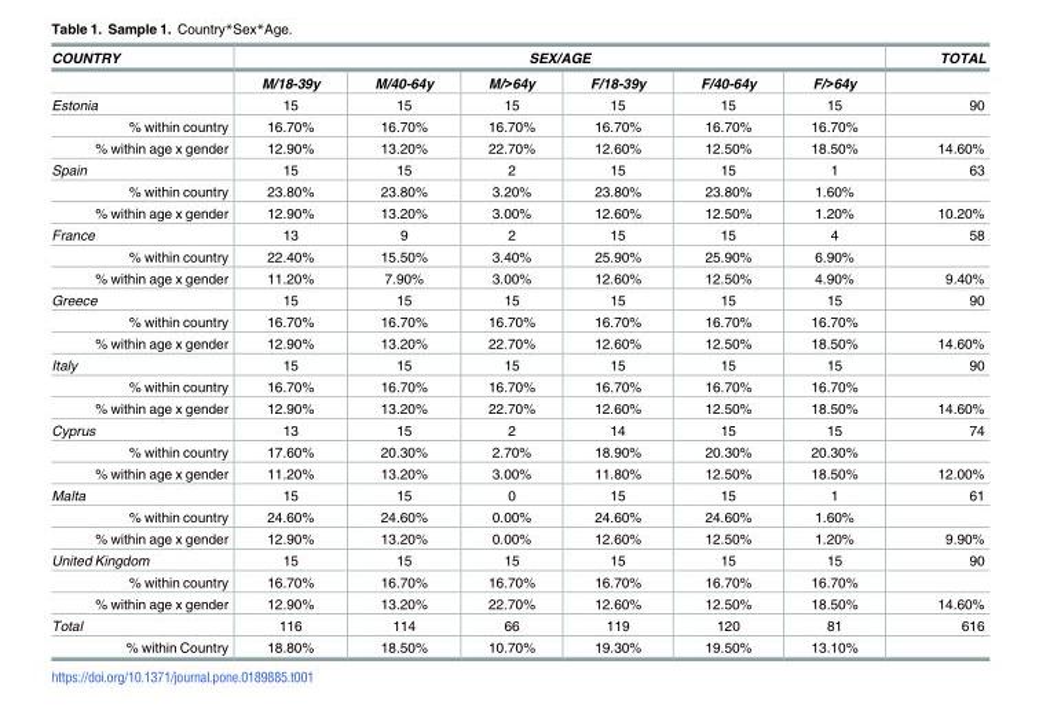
<table><thead><tr><td rowspan="2">COUNTRY</td><td colspan="6">SEX/AGE</td><td rowspan="2">TOTAL</td></tr><tr><td>M/18-39y</td><td>M/40-64y</td><td>M/&gt;64y</td><td>F/18-39y</td><td>F/40-64y</td><td>F/&gt;64y</td></tr></thead><tbody><tr><td>Estonia</td><td>15</td><td>15</td><td>15</td><td>15</td><td>15</td><td>15</td><td>90</td></tr><tr><td>% within country</td><td>16.70%</td><td>16.70%</td><td>16.70%</td><td>16.70%</td><td>16.70%</td><td>16.70%</td><td></td></tr><tr><td>% within age x gender</td><td>12.90%</td><td>13.20%</td><td>22.70%</td><td>12.60%</td><td>12.50%</td><td>18.50%</td><td>14.60%</td></tr><tr><td>Spain</td><td>15</td><td>15</td><td>2</td><td>15</td><td>15</td><td>1</td><td>63</td></tr><tr><td>% within country</td><td>23.80%</td><td>23.80%</td><td>3.20%</td><td>23.80%</td><td>23.80%</td><td>1.60%</td><td></td></tr><tr><td>% within age x gender</td><td>12.90%</td><td>13.20%</td><td>3.00%</td><td>12.60%</td><td>12.50%</td><td>1.20%</td><td>10.20%</td></tr><tr><td>France</td><td>13</td><td>9</td><td>2</td><td>15</td><td>15</td><td>4</td><td>58</td></tr><tr><td>% within country</td><td>22.40%</td><td>15.50%</td><td>3.40%</td><td>25.90%</td><td>25.90%</td><td>6.90%</td><td></td></tr><tr><td>% within age x gender</td><td>11.20%</td><td>7.90%</td><td>3.00%</td><td>12.60%</td><td>12.50%</td><td>4.90%</td><td>9.40%</td></tr><tr><td>Greece</td><td>15</td><td>15</td><td>15</td><td>15</td><td>15</td><td>15</td><td>90</td></tr><tr><td>% within country</td><td>16.70%</td><td>16.70%</td><td>16.70%</td><td>16.70%</td><td>16.70%</td><td>16.70%</td><td></td></tr><tr><td>% within age x gender</td><td>12.90%</td><td>13.20%</td><td>22.70%</td><td>12.60%</td><td>12.50%</td><td>18.50%</td><td>14.60%</td></tr><tr><td>Italy</td><td>15</td><td>15</td><td>15</td><td>15</td><td>15</td><td>15</td><td>90</td></tr><tr><td>% within country</td><td>16.70%</td><td>16.70%</td><td>16.70%</td><td>16.70%</td><td>16.70%</td><td>16.70%</td><td></td></tr><tr><td>% within age x gender</td><td>12.90%</td><td>13.20%</td><td>22.70%</td><td>12.60%</td><td>12.50%</td><td>18.50%</td><td>14.60%</td></tr><tr><td>Cyprus</td><td>13</td><td>15</td><td>2</td><td>14</td><td>15</td><td>15</td><td>74</td></tr><tr><td>% within country</td><td>17.60%</td><td>20.30%</td><td>2.70%</td><td>18.90%</td><td>20.30%</td><td>20.30%</td><td></td></tr><tr><td>% within age x gender</td><td>11.20%</td><td>13.20%</td><td>3.00%</td><td>11.80%</td><td>12.50%</td><td>18.50%</td><td>12.00%</td></tr><tr><td>Malta</td><td>15</td><td>15</td><td>0</td><td>15</td><td>15</td><td>1</td><td>61</td></tr><tr><td>% within country</td><td>24.60%</td><td>24.60%</td><td>0.00%</td><td>24.60%</td><td>24.60%</td><td>1.60%</td><td></td></tr><tr><td>% within age x gender</td><td>12.90%</td><td>13.20%</td><td>0.00%</td><td>12.60%</td><td>12.50%</td><td>1.20%</td><td>9.90%</td></tr><tr><td>United Kingdom</td><td>15</td><td>15</td><td>15</td><td>15</td><td>15</td><td>15</td><td>90</td></tr><tr><td>% within country</td><td>16.70%</td><td>16.70%</td><td>16.70%</td><td>16.70%</td><td>16.70%</td><td>16.70%</td><td></td></tr><tr><td>% within age x gender</td><td>12.90%</td><td>13.20%</td><td>22.70%</td><td>12.60%</td><td>12.50%</td><td>18.50%</td><td>14.60%</td></tr><tr><td>Total</td><td>116</td><td>114</td><td>66</td><td>119</td><td>120</td><td>81</td><td>616</td></tr><tr><td>% within Country</td><td>18.80%</td><td>18.50%</td><td>10.70%</td><td>19.30%</td><td>19.50%</td><td>13.10%</td><td></td></tr></tbody></table>